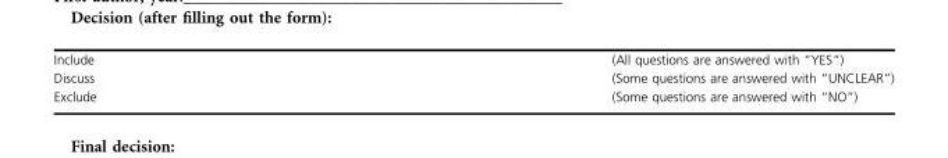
<table><tbody><tr><td>Include</td><td>⁭(All questions are answered with “YES”)</td></tr><tr><td>Discuss</td><td>⁭(Some questions are answered with “UNCLEAR”)</td></tr><tr><td>Exclude</td><td>⁭(Some questions are answered with “NO”)</td></tr></tbody></table>